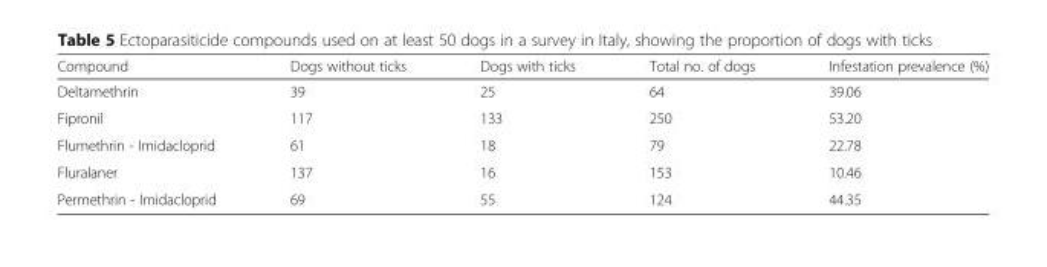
<table><thead><tr><td>Compound</td><td>Dogs without ticks</td><td>Dogs with ticks</td><td>Total no. of dogs</td><td>Infestation prevalence (%)</td></tr></thead><tbody><tr><td>Deltamethrin</td><td>39</td><td>25</td><td>64</td><td>39.06</td></tr><tr><td>Fipronil</td><td>117</td><td>133</td><td>250</td><td>53.20</td></tr><tr><td>Flumethrin - Imidacloprid</td><td>61</td><td>18</td><td>79</td><td>22.78</td></tr><tr><td>Fluralaner</td><td>137</td><td>16</td><td>153</td><td>10.46</td></tr><tr><td>Permethrin - Imidacloprid</td><td>69</td><td>55</td><td>124</td><td>44.35</td></tr></tbody></table>